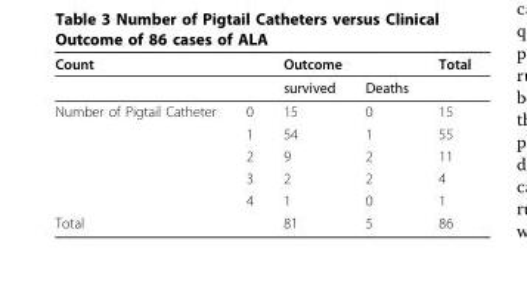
<table><thead><tr><td rowspan="2">Count</td><td rowspan="2"></td><td colspan="2">Outcome</td><td rowspan="2">Total</td></tr><tr><td>survived</td><td>Deaths</td></tr></thead><tbody><tr><td rowspan="5">Number of Pigtail Catheter</td><td>0</td><td>15</td><td>0</td><td>15</td></tr><tr><td>1</td><td>54</td><td>1</td><td>55</td></tr><tr><td>2</td><td>9</td><td>2</td><td>11</td></tr><tr><td>3</td><td>2</td><td>2</td><td>4</td></tr><tr><td>4</td><td>1</td><td>0</td><td>1</td></tr><tr><td>Total</td><td></td><td>81</td><td>5</td><td>86</td></tr></tbody></table>